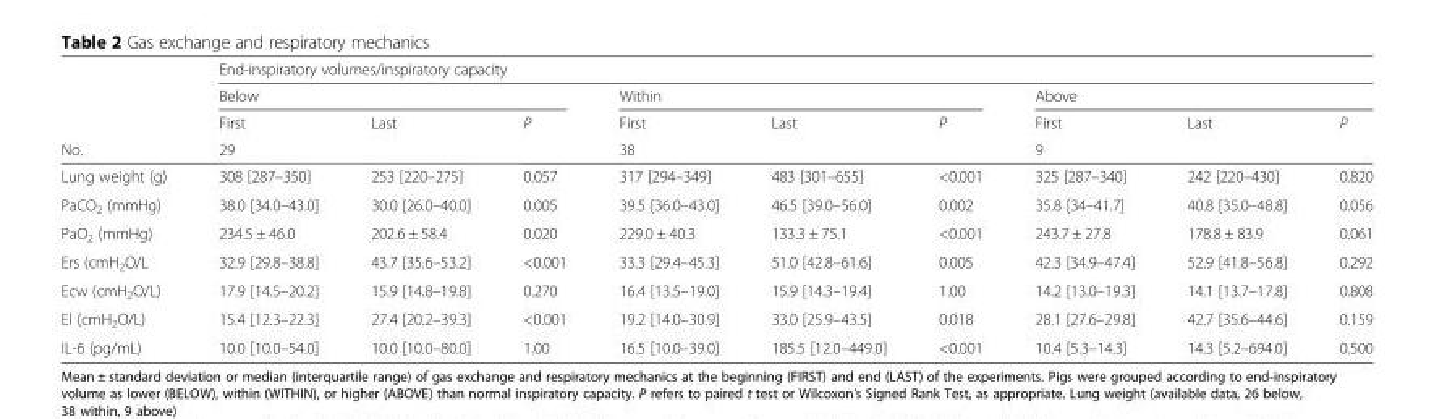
<table><thead><tr><td rowspan="4">No.</td><td colspan="9">End-inspiratory volumes/inspiratory capacity</td></tr><tr><td colspan="3">Below</td><td colspan="3">Within</td><td colspan="3">Above</td></tr><tr><td>First</td><td>Last</td><td rowspan="2">P</td><td>First</td><td>Last</td><td rowspan="2">P</td><td>First</td><td>Last</td><td rowspan="2">P</td></tr><tr><td colspan="2">29</td><td colspan="2">38</td><td colspan="2">9</td></tr></thead><tbody><tr><td>Lung weight (g)</td><td>308 [287–350]</td><td>253 [220–275]</td><td>0.057</td><td>317 [294–349]</td><td>483 [301–655]</td><td>&lt;0.001</td><td>325 [287–340]</td><td>242 [220–430]</td><td>0.820</td></tr><tr><td>PaCO<sub>2</sub> (mmHg)</td><td>38.0 [34.0–43.0]</td><td>30.0 [26.0–40.0]</td><td>0.005</td><td>39.5 [36.0–43.0]</td><td>46.5 [39.0–56.0]</td><td>0.002</td><td>35.8 [34–41.7]</td><td>40.8 [35.0–48.8]</td><td>0.056</td></tr><tr><td>PaO<sub>2</sub> (mmHg)</td><td>234.5 ± 46.0</td><td>202.6 ± 58.4</td><td>0.020</td><td>229.0 ± 40.3</td><td>133.3 ± 75.1</td><td>&lt;0.001</td><td>243.7 ± 27.8</td><td>178.8 ± 83.9</td><td>0.061</td></tr><tr><td>Ers (cmH<sub>2</sub>O/L</td><td>32.9 [29.8–38.8]</td><td>43.7 [35.6–53.2]</td><td>&lt;0.001</td><td>33.3 [29.4–45.3]</td><td>51.0 [42.8–61.6]</td><td>0.005</td><td>42.3 [34.9–47.4]</td><td>52.9 [41.8–56.8]</td><td>0.292</td></tr><tr><td>Ecw (cmH<sub>2</sub>O/L)</td><td>17.9 [14.5–20.2]</td><td>15.9 [14.8–19.8]</td><td>0.270</td><td>16.4 [13.5–19.0]</td><td>15.9 [14.3–19.4]</td><td>1.00</td><td>14.2 [13.0–19.3]</td><td>14.1 [13.7–17.8]</td><td>0.808</td></tr><tr><td>El (cmH<sub>2</sub>O/L)</td><td>15.4 [12.3–22.3]</td><td>27.4 [20.2–39.3]</td><td>&lt;0.001</td><td>19.2 [14.0–30.9]</td><td>33.0 [25.9–43.5]</td><td>0.018</td><td>28.1 [27.6–29.8]</td><td>42.7 [35.6–44.6]</td><td>0.159</td></tr><tr><td>IL-6 (pg/mL)</td><td>10.0 [10.0–54.0]</td><td>10.0 [10.0–80.0]</td><td>1.00</td><td>16.5 [10.0–39.0]</td><td>185.5 [12.0–449.0]</td><td>&lt;0.001</td><td>10.4 [5.3–14.3]</td><td>14.3 [5.2–694.0]</td><td>0.500</td></tr></tbody></table>